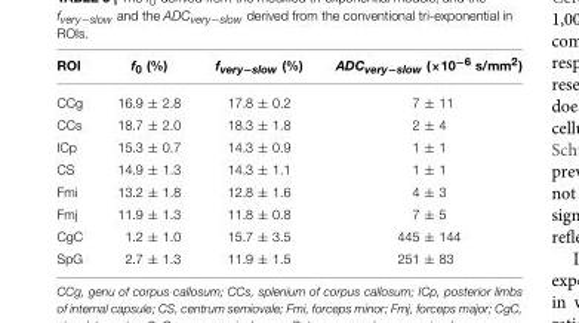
<table><thead><tr><td>ROI</td><td>f<sub>0</sub> (%)</td><td>fvery−slow (%)</td><td>ADCvery−slow (×10−6 s/mm2)</td></tr></thead><tbody><tr><td>CCg</td><td>16.9 ± 2.8</td><td>17.8 ± 0.2</td><td>7 ± 11</td></tr><tr><td>CCs</td><td>18.7 ± 2.0</td><td>18.3 ± 1.8</td><td>2 ± 4</td></tr><tr><td>ICp</td><td>15.3 ± 0.7</td><td>14.3 ± 0.9</td><td>1 ± 1</td></tr><tr><td>CS</td><td>14.9 ± 1.3</td><td>14.3 ± 1.1</td><td>1 ± 1</td></tr><tr><td>Fmi</td><td>13.2 ± 1.8</td><td>12.8 ± 1.6</td><td>4 ± 3</td></tr><tr><td>Fmj</td><td>11.9 ± 1.3</td><td>11.8 ± 0.8</td><td>7 ± 5</td></tr><tr><td>CgC</td><td>1.2 ± 1.0</td><td>15.7 ± 3.5</td><td>445 ± 144</td></tr><tr><td>SpG</td><td>2.7 ± 1.3</td><td>11.9 ± 1.5</td><td>251 ± 83</td></tr></tbody></table>